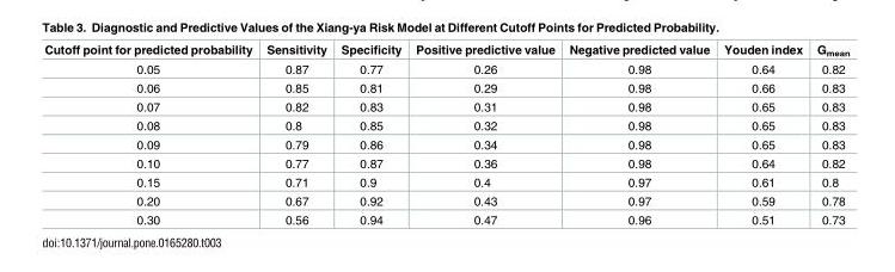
<table><thead><tr><td>Cutoff point for predicted probability</td><td>Sensitivity</td><td>Specificity</td><td>Positive predictive value</td><td>Negative predicted value</td><td>Youden index</td><td>G<sub>mean</sub></td></tr></thead><tbody><tr><td>0.05</td><td>0.87</td><td>0.77</td><td>0.26</td><td>0.98</td><td>0.64</td><td>0.82</td></tr><tr><td>0.06</td><td>0.85</td><td>0.81</td><td>0.29</td><td>0.98</td><td>0.66</td><td>0.83</td></tr><tr><td>0.07</td><td>0.82</td><td>0.83</td><td>0.31</td><td>0.98</td><td>0.65</td><td>0.83</td></tr><tr><td>0.08</td><td>0.8</td><td>0.85</td><td>0.32</td><td>0.98</td><td>0.65</td><td>0.83</td></tr><tr><td>0.09</td><td>0.79</td><td>0.86</td><td>0.34</td><td>0.98</td><td>0.65</td><td>0.83</td></tr><tr><td>0.10</td><td>0.77</td><td>0.87</td><td>0.36</td><td>0.98</td><td>0.64</td><td>0.82</td></tr><tr><td>0.15</td><td>0.71</td><td>0.9</td><td>0.4</td><td>0.97</td><td>0.61</td><td>0.8</td></tr><tr><td>0.20</td><td>0.67</td><td>0.92</td><td>0.43</td><td>0.97</td><td>0.59</td><td>0.78</td></tr><tr><td>0.30</td><td>0.56</td><td>0.94</td><td>0.47</td><td>0.96</td><td>0.51</td><td>0.73</td></tr></tbody></table>